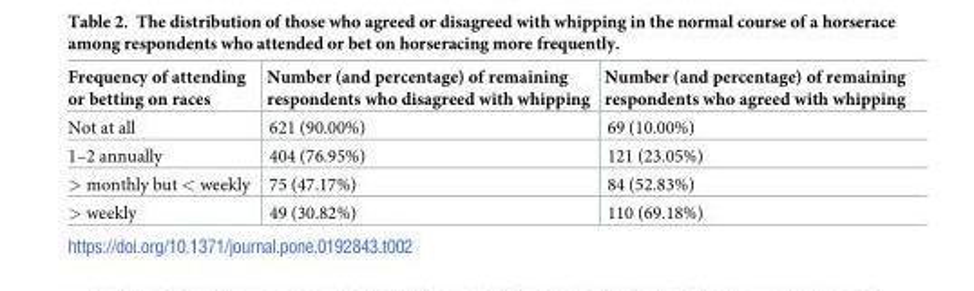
<table><thead><tr><td>Frequency of attending or betting on races</td><td>Number (and percentage) of remaining respondents who disagreed with whipping</td><td>Number (and percentage) of remaining respondents who agreed with whipping</td></tr></thead><tbody><tr><td>Not at all</td><td>621 (90.00%)</td><td>69 (10.00%)</td></tr><tr><td>1–2 annually</td><td>404 (76.95%)</td><td>121 (23.05%)</td></tr><tr><td>&gt; monthly but &lt; weekly</td><td>75 (47.17%)</td><td>84 (52.83%)</td></tr><tr><td>&gt; weekly</td><td>49 (30.82%)</td><td>110 (69.18%)</td></tr></tbody></table>